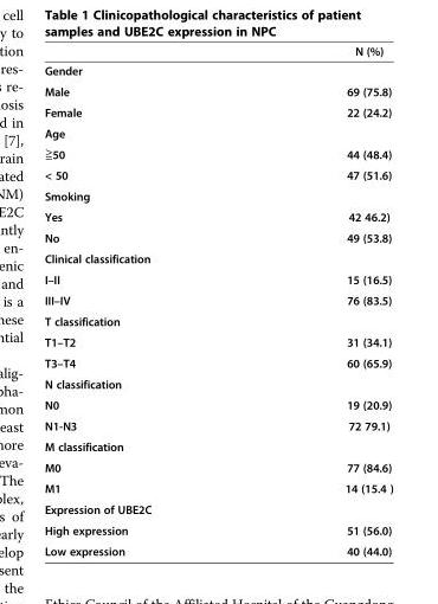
<table><thead><tr><td></td><td>N (%)</td></tr></thead><tbody><tr><td colspan="2">Gender</td></tr><tr><td>Male</td><td>69 (75.8)</td></tr><tr><td>Female</td><td>22 (24.2)</td></tr><tr><td colspan="2">Age</td></tr><tr><td>≧50</td><td>44 (48.4)</td></tr><tr><td>&lt; 50</td><td>47 (51.6)</td></tr><tr><td colspan="2">Smoking</td></tr><tr><td>Yes</td><td>42 46.2)</td></tr><tr><td>No</td><td>49 (53.8)</td></tr><tr><td colspan="2">Clinical classification</td></tr><tr><td>I–II</td><td>15 (16.5)</td></tr><tr><td>III–IV</td><td>76 (83.5)</td></tr><tr><td colspan="2">T classification</td></tr><tr><td>T1–T2</td><td>31 (34.1)</td></tr><tr><td>T3–T4</td><td>60 (65.9)</td></tr><tr><td colspan="2">N classification</td></tr><tr><td>N0</td><td>19 (20.9)</td></tr><tr><td>N1-N3</td><td>72 79.1)</td></tr><tr><td colspan="2">M classification</td></tr><tr><td>M0</td><td>77 (84.6)</td></tr><tr><td>M1</td><td>14 (15.4 )</td></tr><tr><td colspan="2">Expression of UBE2C</td></tr><tr><td>High expression</td><td>51 (56.0)</td></tr><tr><td>Low expression</td><td>40 (44.0)</td></tr></tbody></table>